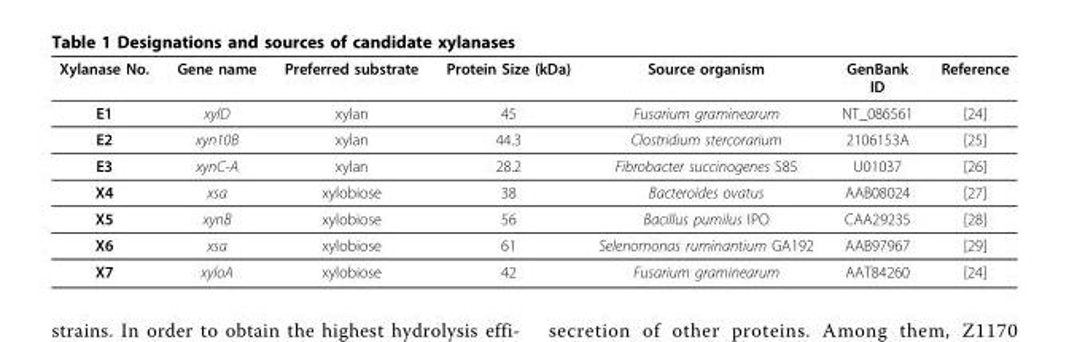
<table><thead><tr><td>Xylanase No.</td><td>Gene name</td><td>Preferred substrate</td><td>Protein Size (kDa)</td><td>Source organism</td><td>GenBank ID</td><td>Reference</td></tr></thead><tbody><tr><td>E1</td><td>xylD</td><td>xylan</td><td>45</td><td>Fusarium graminearum</td><td>NT_086561</td><td>[24]</td></tr><tr><td>E2</td><td>xyn10B</td><td>xylan</td><td>44.3</td><td>Clostridium stercorarium</td><td>2106153A</td><td>[25]</td></tr><tr><td>E3</td><td>xynC-A</td><td>xylan</td><td>28.2</td><td>Fibrobacter succinogenes S85</td><td>U01037</td><td>[26]</td></tr><tr><td>X4</td><td>xsa</td><td>xylobiose</td><td>38</td><td>Bacteroides ovatus</td><td>AAB08024</td><td>[27]</td></tr><tr><td>X5</td><td>xynB</td><td>xylobiose</td><td>56</td><td>Bacillus pumilus IPO</td><td>CAA29235</td><td>[28]</td></tr><tr><td>X6</td><td>xsa</td><td>xylobiose</td><td>61</td><td>Selenomonas ruminantium GA192</td><td>AAB97967</td><td>[29]</td></tr><tr><td>X7</td><td>xyloA</td><td>xylobiose</td><td>42</td><td>Fusarium graminearum</td><td>AAT84260</td><td>[24]</td></tr></tbody></table>